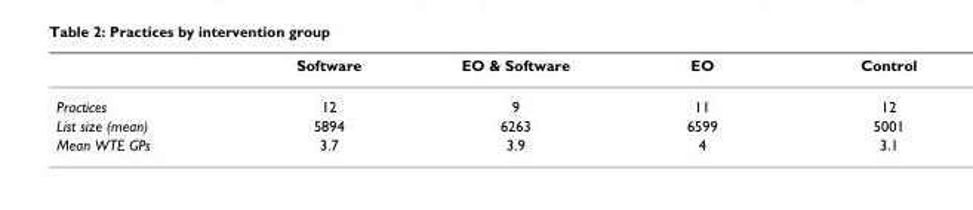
<table><thead><tr><td></td><td>Software</td><td>EO &amp; Software</td><td>EO</td><td>Control</td></tr></thead><tbody><tr><td>Practices</td><td>12</td><td>9</td><td>11</td><td>12</td></tr><tr><td>List size (mean)</td><td>5894</td><td>6263</td><td>6599</td><td>5001</td></tr><tr><td>Mean WTE GPs</td><td>3.7</td><td>3.9</td><td>4</td><td>3.1</td></tr></tbody></table>